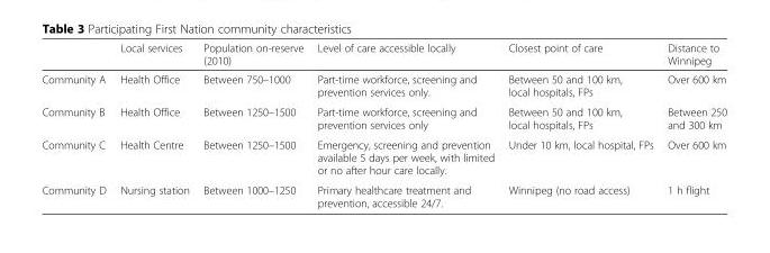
<table><thead><tr><td></td><td>Local services</td><td>Population on-reserve (2010)</td><td>Level of care accessible locally</td><td>Closest point of care</td><td>Distance to Winnipeg</td></tr></thead><tbody><tr><td>Community A</td><td>Health Office</td><td>Between 750–1000</td><td>Part-time workforce, screening and prevention services only.</td><td>Between 50 and 100 km, local hospitals, FPs</td><td>Over 600 km</td></tr><tr><td>Community B</td><td>Health Office</td><td>Between 1250–1500</td><td>Part-time workforce, screening and prevention services only</td><td>Between 50 and 100 km, local hospitals, FPs</td><td>Between 250 and 300 km</td></tr><tr><td>Community C</td><td>Health Centre</td><td>Between 1250–1500</td><td>Emergency, screening and prevention available 5 days per week, with limited or no after hour care locally.</td><td>Under 10 km, local hospital, FPs</td><td>Over 600 km</td></tr><tr><td>Community D</td><td>Nursing station</td><td>Between 1000–1250</td><td>Primary healthcare treatment and prevention, accessible 24/7.</td><td>Winnipeg (no road access)</td><td>1 h flight</td></tr></tbody></table>